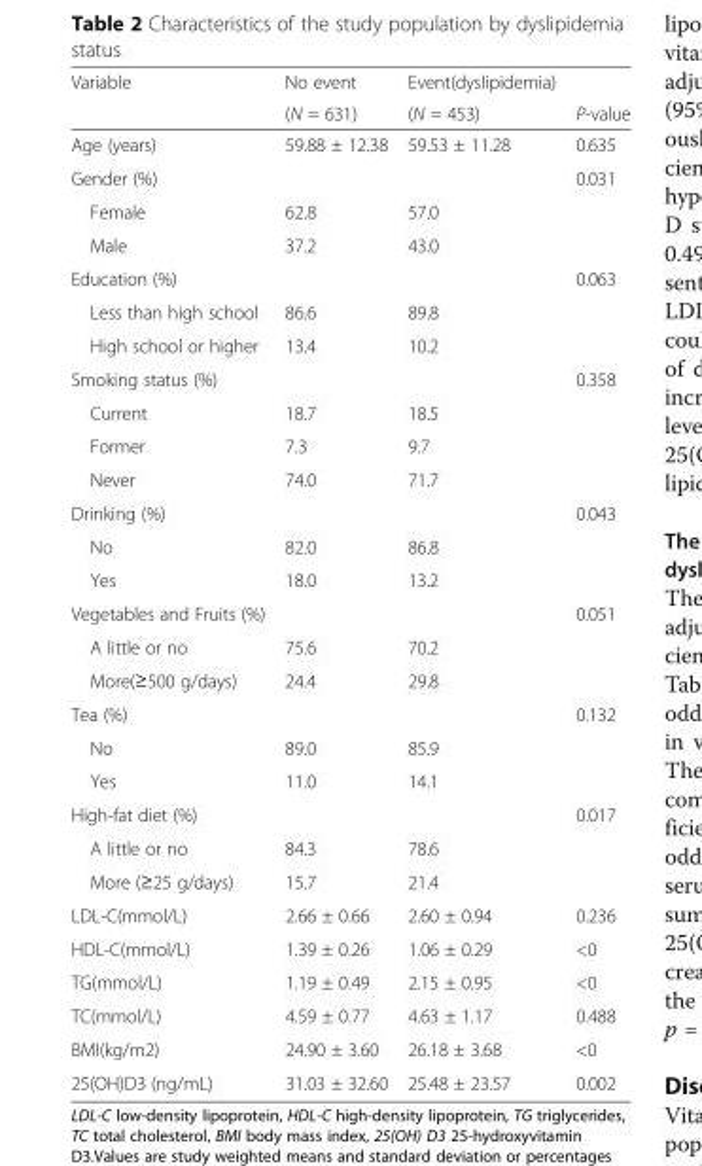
<table><thead><tr><td rowspan="2">Variable</td><td rowspan="2">No event (N = 631)</td><td rowspan="2">Event(dyslipidemia) (N = 453)</td><td rowspan="2">P-value</td></tr><tr></tr></thead><tbody><tr><td>Age (years)</td><td>59.88 ± 12.38</td><td>59.53 ± 11.28</td><td>0.635</td></tr><tr><td colspan="3">Gender (%)</td><td rowspan="3">0.031</td></tr><tr><td>Female</td><td>62.8</td><td>57.0</td></tr><tr><td>Male</td><td>37.2</td><td>43.0</td></tr><tr><td colspan="3">Education (%)</td><td rowspan="3">0.063</td></tr><tr><td>Less than high school</td><td>86.6</td><td>89.8</td></tr><tr><td>High school or higher</td><td>13.4</td><td>10.2</td></tr><tr><td colspan="3">Smoking status (%)</td><td rowspan="4">0.358</td></tr><tr><td>Current</td><td>18.7</td><td>18.5</td></tr><tr><td>Former</td><td>7.3</td><td>9.7</td></tr><tr><td>Never</td><td>74.0</td><td>71.7</td></tr><tr><td colspan="3">Drinking (%)</td><td rowspan="3">0.043</td></tr><tr><td>No</td><td>82.0</td><td>86.8</td></tr><tr><td>Yes</td><td>18.0</td><td>13.2</td></tr><tr><td colspan="3">Vegetables and Fruits (%)</td><td rowspan="3">0.051</td></tr><tr><td>A little or no</td><td>75.6</td><td>70.2</td></tr><tr><td>More(≥500 g/days)</td><td>24.4</td><td>29.8</td></tr><tr><td>Tea (%)</td><td></td><td></td><td>0.132</td></tr><tr><td>No</td><td>89.0</td><td>85.9</td><td></td></tr><tr><td>Yes</td><td>11.0</td><td>14.1</td><td></td></tr><tr><td colspan="3">High-fat diet (%)</td><td rowspan="3">0.017</td></tr><tr><td>A little or no</td><td>84.3</td><td>78.6</td></tr><tr><td>More (≥25 g/days)</td><td>15.7</td><td>21.4</td></tr><tr><td>LDL-C(mmol/L)</td><td>2.66 ± 0.66</td><td>2.60 ± 0.94</td><td>0.236</td></tr><tr><td>HDL-C(mmol/L)</td><td>1.39 ± 0.26</td><td>1.06 ± 0.29</td><td>&lt;0</td></tr><tr><td>TG(mmol/L)</td><td>1.19 ± 0.49</td><td>2.15 ± 0.95</td><td>&lt;0</td></tr><tr><td>TC(mmol/L)</td><td>4.59 ± 0.77</td><td>4.63 ± 1.17</td><td>0.488</td></tr><tr><td>BMI(kg/m2)</td><td>24.90 ± 3.60</td><td>26.18 ± 3.68</td><td>&lt;0</td></tr><tr><td>25(OH)D3 (ng/mL)</td><td>31.03 ± 32.60</td><td>25.48 ± 23.57</td><td>0.002</td></tr></tbody></table>